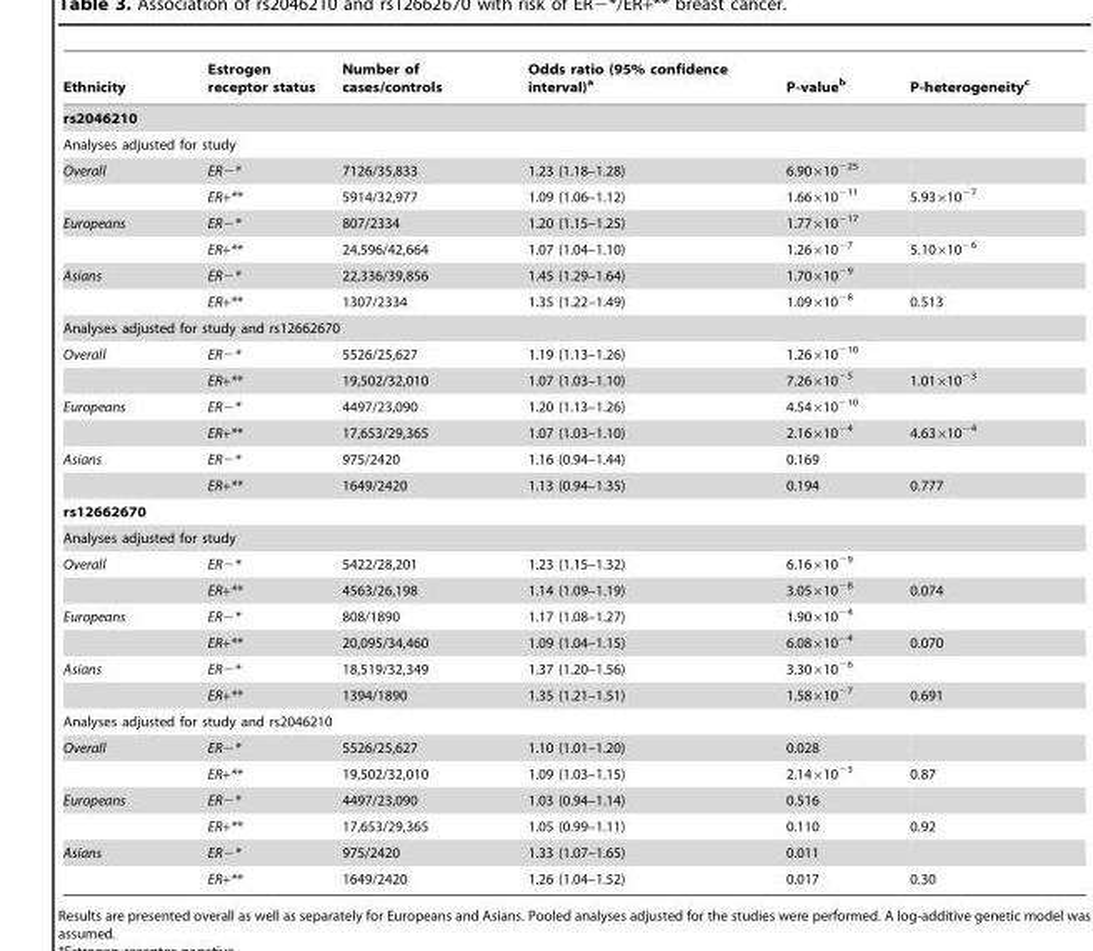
<table><thead><tr><td>Ethnicity</td><td>Estrogen receptor status</td><td>Number of cases/controls</td><td>Odds ratio (95% confidence interval)<sup>a</sup></td><td>P-value<sup>b</sup></td><td>P-heterogeneity<sup>c</sup></td></tr></thead><tbody><tr><td colspan="6">rs2046210</td></tr><tr><td colspan="6">Analyses adjusted for study</td></tr><tr><td rowspan="2">Overall</td><td>ER−*</td><td>7126/35,833</td><td>1.23 (1.18–1.28)</td><td>6.90×10<sup>−25</sup></td><td></td></tr><tr><td>ER+**</td><td>5914/32,977</td><td>1.09 (1.06–1.12)</td><td>1.66×10<sup>−11</sup></td><td>5.93×10<sup>−7</sup></td></tr><tr><td rowspan="2">Europeans</td><td>ER−*</td><td>807/2334</td><td>1.20 (1.15–1.25)</td><td>1.77×10<sup>−17</sup></td><td></td></tr><tr><td>ER+**</td><td>24,596/42,664</td><td>1.07 (1.04–1.10)</td><td>1.26×10<sup>−7</sup></td><td>5.10×10<sup>−6</sup></td></tr><tr><td rowspan="2">Asians</td><td>ER−*</td><td>22,336/39,856</td><td>1.45 (1.29–1.64)</td><td>1.70×10<sup>−9</sup></td><td></td></tr><tr><td>ER+**</td><td>1307/2334</td><td>1.35 (1.22–1.49)</td><td>1.09×10<sup>−8</sup></td><td>0.513</td></tr><tr><td colspan="6">Analyses adjusted for study and rs12662670</td></tr><tr><td rowspan="2">Overall</td><td>ER−*</td><td>5526/25,627</td><td>1.19 (1.13–1.26)</td><td>1.26×10<sup>−10</sup></td><td></td></tr><tr><td>ER+**</td><td>19,502/32,010</td><td>1.07 (1.03–1.10)</td><td>7.26×10<sup>−5</sup></td><td>1.01×10<sup>−3</sup></td></tr><tr><td rowspan="2">Europeans</td><td>ER−*</td><td>4497/23,090</td><td>1.20 (1.13–1.26)</td><td>4.54×10<sup>−10</sup></td><td></td></tr><tr><td>ER+**</td><td>17,653/29,365</td><td>1.07 (1.03–1.10)</td><td>2.16×10<sup>−4</sup></td><td>4.63×10<sup>−4</sup></td></tr><tr><td rowspan="2">Asians</td><td>ER−*</td><td>975/2420</td><td>1.16 (0.94–1.44)</td><td>0.169</td><td></td></tr><tr><td>ER+**</td><td>1649/2420</td><td>1.13 (0.94–1.35)</td><td>0.194</td><td>0.777</td></tr><tr><td colspan="6">rs12662670</td></tr><tr><td colspan="6">Analyses adjusted for study</td></tr><tr><td rowspan="2">Overall</td><td>ER−*</td><td>5422/28,201</td><td>1.23 (1.15–1.32)</td><td>6.16×10<sup>−9</sup></td><td></td></tr><tr><td>ER+**</td><td>4563/26,198</td><td>1.14 (1.09–1.19)</td><td>3.05×10<sup>−8</sup></td><td>0.074</td></tr><tr><td rowspan="2">Europeans</td><td>ER−*</td><td>808/1890</td><td>1.17 (1.08–1.27)</td><td>1.90×10<sup>−4</sup></td><td></td></tr><tr><td>ER+**</td><td>20,095/34,460</td><td>1.09 (1.04–1.15)</td><td>6.08×10<sup>−4</sup></td><td>0.070</td></tr><tr><td rowspan="2">Asians</td><td>ER−*</td><td>18,519/32,349</td><td>1.37 (1.20–1.56)</td><td>3.30×10<sup>−6</sup></td><td></td></tr><tr><td>ER+**</td><td>1394/1890</td><td>1.35 (1.21–1.51)</td><td>1.58×10<sup>−7</sup></td><td>0.691</td></tr><tr><td colspan="6">Analyses adjusted for study and rs2046210</td></tr><tr><td rowspan="2">Overall</td><td>ER−*</td><td>5526/25,627</td><td>1.10 (1.01–1.20)</td><td>0.028</td><td></td></tr><tr><td>ER+**</td><td>19,502/32,010</td><td>1.09 (1.03–1.15)</td><td>2.14×10<sup>−3</sup></td><td>0.87</td></tr><tr><td rowspan="2">Europeans</td><td>ER−*</td><td>4497/23,090</td><td>1.03 (0.94–1.14)</td><td>0.516</td><td></td></tr><tr><td>ER+**</td><td>17,653/29,365</td><td>1.05 (0.99–1.11)</td><td>0.110</td><td>0.92</td></tr><tr><td rowspan="2">Asians</td><td>ER−*</td><td>975/2420</td><td>1.33 (1.07–1.65)</td><td>0.011</td><td></td></tr><tr><td>ER+**</td><td>1649/2420</td><td>1.26 (1.04–1.52)</td><td>0.017</td><td>0.30</td></tr></tbody></table>